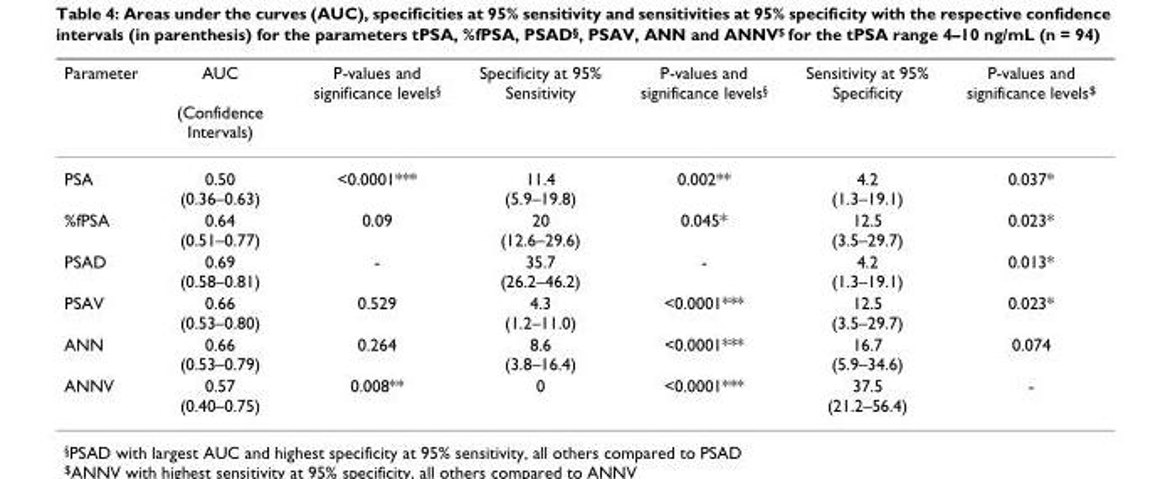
<table><thead><tr><td>Parameter</td><td>AUC (Confidence Intervals)</td><td>P-values and significance levels<sup>§</sup></td><td>Specificity at 95% Sensitivity</td><td>P-values and significance levels<sup>§</sup></td><td>Sensitivity at 95% Specificity</td><td>P-values and significance levels<sup>$</sup></td></tr></thead><tbody><tr><td>PSA</td><td>0.50 (0.36–0.63)</td><td>&lt;0.0001***</td><td>11.4 (5.9–19.8)</td><td>0.002**</td><td>4.2 (1.3–19.1)</td><td>0.037*</td></tr><tr><td>%fPSA</td><td>0.64 (0.51–0.77)</td><td>0.09</td><td>20 (12.6–29.6)</td><td>0.045*</td><td>12.5 (3.5–29.7)</td><td>0.023*</td></tr><tr><td>PSAD</td><td>0.69 (0.58–0.81)</td><td>-</td><td>35.7 (26.2–46.2)</td><td>-</td><td>4.2 (1.3–19.1)</td><td>0.013*</td></tr><tr><td>PSAV</td><td>0.66 (0.53–0.80)</td><td>0.529</td><td>4.3 (1.2–11.0)</td><td>&lt;0.0001***</td><td>12.5 (3.5–29.7)</td><td>0.023*</td></tr><tr><td>ANN</td><td>0.66 (0.53–0.79)</td><td>0.264</td><td>8.6 (3.8–16.4)</td><td>&lt;0.0001***</td><td>16.7 (5.9–34.6)</td><td>0.074</td></tr><tr><td>ANNV</td><td>0.57 (0.40–0.75)</td><td>0.008**</td><td>0</td><td>&lt;0.0001***</td><td>37.5 (21.2–56.4)</td><td>-</td></tr></tbody></table>